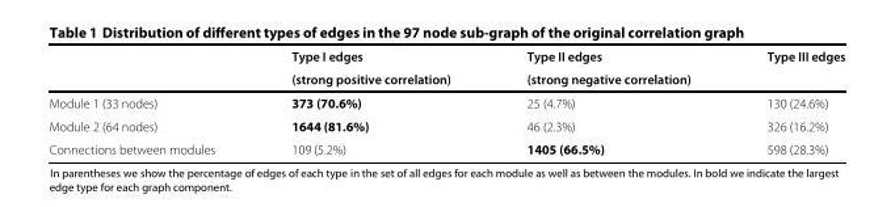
<table><thead><tr><td rowspan="2"></td><td rowspan="2">Type I edges (strong positive correlation)</td><td rowspan="2">Type II edges (strong negative correlation)</td><td rowspan="2">Type III edges</td></tr><tr></tr></thead><tbody><tr><td>Module 1 (33 nodes)</td><td>373 (70.6%)</td><td>25 (4.7%)</td><td>130 (24.6%)</td></tr><tr><td>Module 2 (64 nodes)</td><td>1644 (81.6%)</td><td>46 (2.3%)</td><td>326 (16.2%)</td></tr><tr><td>Connections between modules</td><td>109 (5.2%)</td><td>1405 (66.5%)</td><td>598 (28.3%)</td></tr></tbody></table>